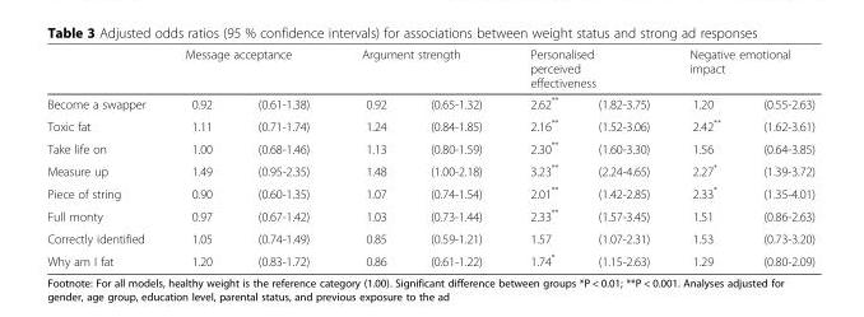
<table><thead><tr><td rowspan="2">Become a swapper</td><td colspan="2">Message acceptance</td><td colspan="2">Argument strength</td><td colspan="2">Personalised perceived effectiveness</td><td colspan="2">Negative emotional impact</td></tr><tr><td>0.92</td><td>(0.61-1.38)</td><td>0.92</td><td>(0.65-1.32)</td><td>2.62**</td><td>(1.82-3.75)</td><td>1.20</td><td>(0.55-2.63)</td></tr></thead><tbody><tr><td>Toxic fat</td><td>1.11</td><td>(0.71-1.74)</td><td>1.24</td><td>(0.84-1.85)</td><td>2.16**</td><td>(1.52-3.06)</td><td>2.42**</td><td>(1.62-3.61)</td></tr><tr><td>Take life on</td><td>1.00</td><td>(0.68-1.46)</td><td>1.13</td><td>(0.80-1.59)</td><td>2.30**</td><td>(1.60-3.30)</td><td>1.56</td><td>(0.64-3.85)</td></tr><tr><td>Measure up</td><td>1.49</td><td>(0.95-2.35)</td><td>1.48</td><td>(1.00-2.18)</td><td>3.23**</td><td>(2.24-4.65)</td><td>2.27*</td><td>(1.39-3.72)</td></tr><tr><td>Piece of string</td><td>0.90</td><td>(0.60-1.35)</td><td>1.07</td><td>(0.74-1.54)</td><td>2.01**</td><td>(1.42-2.85)</td><td>2.33*</td><td>(1.35-4.01)</td></tr><tr><td>Full monty</td><td>0.97</td><td>(0.67-1.42)</td><td>1.03</td><td>(0.73-1.44)</td><td>2.33**</td><td>(1.57-3.45)</td><td>1.51</td><td>(0.86-2.63)</td></tr><tr><td>Correctly identified</td><td>1.05</td><td>(0.74-1.49)</td><td>0.85</td><td>(0.59-1.21)</td><td>1.57</td><td>(1.07-2.31)</td><td>1.53</td><td>(0.73-3.20)</td></tr><tr><td>Why am I fat</td><td>1.20</td><td>(0.83-1.72)</td><td>0.86</td><td>(0.61-1.22)</td><td>1.74*</td><td>(1.15-2.63)</td><td>1.29</td><td>(0.80-2.09)</td></tr></tbody></table>